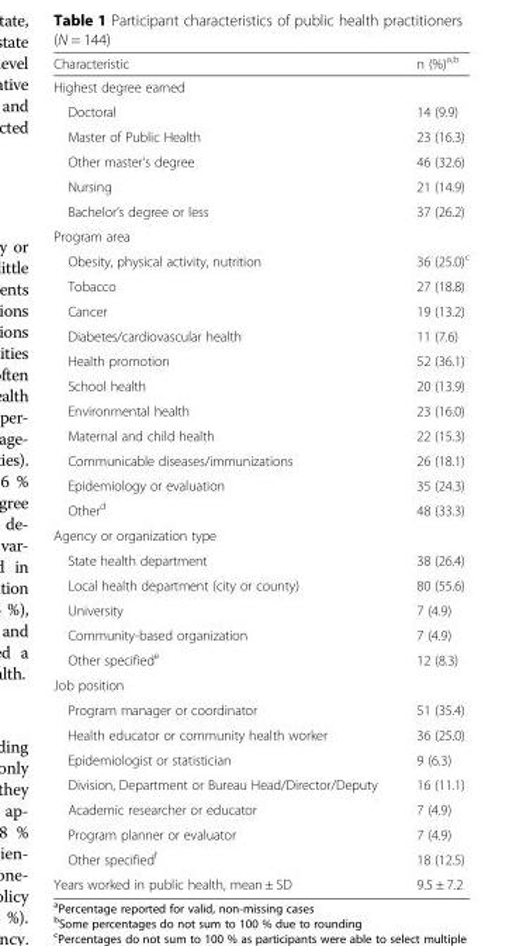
<table><thead><tr><td>Characteristic</td><td>n (%)<sup>a,b</sup></td></tr></thead><tbody><tr><td colspan="2">Highest degree earned</td></tr><tr><td>Doctoral</td><td>14 (9.9)</td></tr><tr><td>Master of Public Health</td><td>23 (16.3)</td></tr><tr><td>Other master’s degree</td><td>46 (32.6)</td></tr><tr><td>Nursing</td><td>21 (14.9)</td></tr><tr><td>Bachelor’s degree or less</td><td>37 (26.2)</td></tr><tr><td colspan="2">Program area</td></tr><tr><td>Obesity, physical activity, nutrition</td><td>36 (25.0)<sup>c</sup></td></tr><tr><td>Tobacco</td><td>27 (18.8)</td></tr><tr><td>Cancer</td><td>19 (13.2)</td></tr><tr><td>Diabetes/cardiovascular health</td><td>11 (7.6)</td></tr><tr><td>Health promotion</td><td>52 (36.1)</td></tr><tr><td>School health</td><td>20 (13.9)</td></tr><tr><td>Environmental health</td><td>23 (16.0)</td></tr><tr><td>Maternal and child health</td><td>22 (15.3)</td></tr><tr><td>Communicable diseases/immunizations</td><td>26 (18.1)</td></tr><tr><td>Epidemiology or evaluation</td><td>35 (24.3)</td></tr><tr><td>Other<sup>d</sup></td><td>48 (33.3)</td></tr><tr><td colspan="2">Agency or organization type</td></tr><tr><td>State health department</td><td>38 (26.4)</td></tr><tr><td>Local health department (city or county)</td><td>80 (55.6)</td></tr><tr><td>University</td><td>7 (4.9)</td></tr><tr><td>Community-based organization</td><td>7 (4.9)</td></tr><tr><td>Other specified<sup>e</sup></td><td>12 (8.3)</td></tr><tr><td colspan="2">Job position</td></tr><tr><td>Program manager or coordinator</td><td>51 (35.4)</td></tr><tr><td>Health educator or community health worker</td><td>36 (25.0)</td></tr><tr><td>Epidemiologist or statistician</td><td>9 (6.3)</td></tr><tr><td>Division, Department or Bureau Head/Director/Deputy</td><td>16 (11.1)</td></tr><tr><td>Academic researcher or educator</td><td>7 (4.9)</td></tr><tr><td>Program planner or evaluator</td><td>7 (4.9)</td></tr><tr><td>Other specified<sup>f</sup></td><td>18 (12.5)</td></tr><tr><td>Years worked in public health, mean ± SD</td><td>9.5 ± 7.2</td></tr></tbody></table>